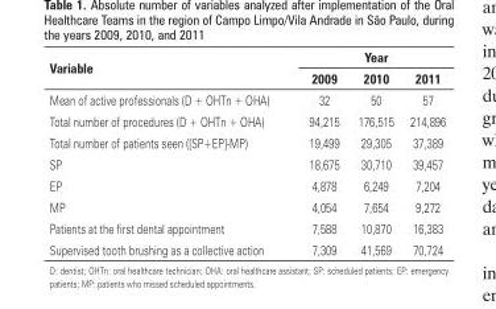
<table><thead><tr><td rowspan="2">Variable</td><td colspan="3">Year</td></tr><tr><td>2009</td><td>2010</td><td>2011</td></tr></thead><tbody><tr><td>Mean of active professionals (D + OHTn + OHA)</td><td>32</td><td>50</td><td>57</td></tr><tr><td>Total number of procedures (D + OHTn + OHA)</td><td>94,215</td><td>176,515</td><td>214,896</td></tr><tr><td>Total number of patients seen ([SP+EP]-MP)</td><td>19,499</td><td>29,305</td><td>37,389</td></tr><tr><td>SP</td><td>18,675</td><td>30,710</td><td>39,457</td></tr><tr><td>EP</td><td>4,878</td><td>6,249</td><td>7,204</td></tr><tr><td>MP</td><td>4,054</td><td>7,654</td><td>9,272</td></tr><tr><td>Patients at the first dental appointment</td><td>7,588</td><td>10,870</td><td>16,383</td></tr><tr><td>Supervised tooth brushing as a collective action</td><td>7,309</td><td>41,569</td><td>70,724</td></tr></tbody></table>